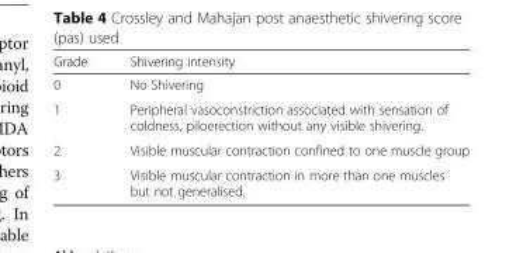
<table><thead><tr><td>Grade</td><td>Shivering intensity</td></tr></thead><tbody><tr><td>0</td><td>No Shivering</td></tr><tr><td>1</td><td>Peripheral vasoconstriction associated with sensation of coldness, piloerection without any visible shivering.</td></tr><tr><td>2</td><td>Visible muscular contraction confined to one muscle group</td></tr><tr><td>3</td><td>Visible muscular contraction in more than one muscles but not generalised.</td></tr></tbody></table>